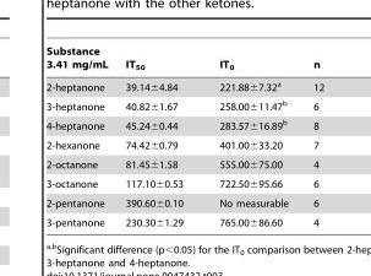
<table><thead><tr><td>Substance 3.41 mg/mL</td><td>IT<sub>50</sub></td><td>IT<sub>0</sub></td><td>n</td></tr></thead><tbody><tr><td>2-heptanone</td><td>39.14±4.84</td><td>221.88±7.32<sup>a</sup></td><td>12</td></tr><tr><td>3-heptanone</td><td>40.82±1.67</td><td>258.00±11.47<sup>b</sup></td><td>6</td></tr><tr><td>4-heptanone</td><td>45.24±0.44</td><td>283.57±16.89<sup>b</sup></td><td>8</td></tr><tr><td>2-hexanone</td><td>74.42±0.79</td><td>401.00±33.20</td><td>7</td></tr><tr><td>2-octanone</td><td>81.45±1.58</td><td>555.00±75.00</td><td>4</td></tr><tr><td>3-octanone</td><td>117.10±0.53</td><td>722.50±95.66</td><td>6</td></tr><tr><td>2-pentanone</td><td>390.60±0.10</td><td>No measurable</td><td>6</td></tr><tr><td>3-pentanone</td><td>230.30±1.29</td><td>765.00±86.60</td><td>4</td></tr></tbody></table>